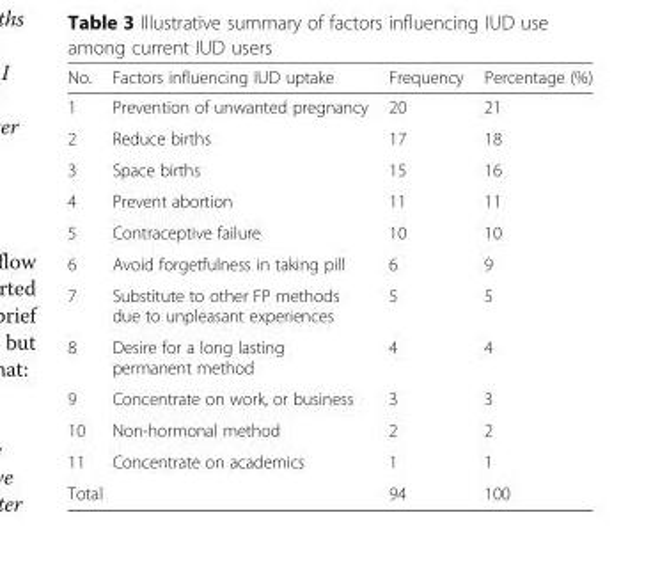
<table><thead><tr><td>No.</td><td>Factors influencing IUD uptake</td><td>Frequency</td><td>Percentage (%)</td></tr></thead><tbody><tr><td>1</td><td>Prevention of unwanted pregnancy</td><td>20</td><td>21</td></tr><tr><td>2</td><td>Reduce births</td><td>17</td><td>18</td></tr><tr><td>3</td><td>Space births</td><td>15</td><td>16</td></tr><tr><td>4</td><td>Prevent abortion</td><td>11</td><td>11</td></tr><tr><td>5</td><td>Contraceptive failure</td><td>10</td><td>10</td></tr><tr><td>6</td><td>Avoid forgetfulness in taking pill</td><td>6</td><td>9</td></tr><tr><td>7</td><td>Substitute to other FP methods due to unpleasant experiences</td><td>5</td><td>5</td></tr><tr><td>8</td><td>Desire for a long lasting permanent method</td><td>4</td><td>4</td></tr><tr><td>9</td><td>Concentrate on work, or business</td><td>3</td><td>3</td></tr><tr><td>10</td><td>Non-hormonal method</td><td>2</td><td>2</td></tr><tr><td>11</td><td>Concentrate on academics</td><td>1</td><td>1</td></tr><tr><td colspan="2">Total</td><td>94</td><td>100</td></tr></tbody></table>